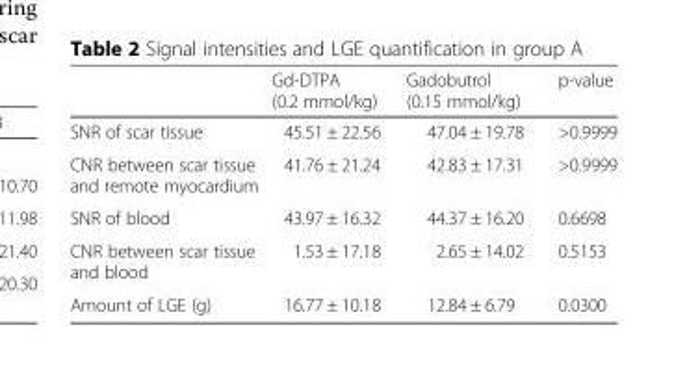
<table><thead><tr><td></td><td>Gd-DTPA (0.2 mmol/kg)</td><td>Gadobutrol (0.15 mmol/kg)</td><td>p-value</td></tr></thead><tbody><tr><td>SNR of scar tissue</td><td>45.51 ± 22.56</td><td>47.04 ± 19.78</td><td>&gt;0.9999</td></tr><tr><td>CNR between scar tissue and remote myocardium</td><td>41.76 ± 21.24</td><td>42.83 ± 17.31</td><td>&gt;0.9999</td></tr><tr><td>SNR of blood</td><td>43.97 ± 16.32</td><td>44.37 ± 16.20</td><td>0.6698</td></tr><tr><td>CNR between scar tissue and blood</td><td>1.53 ± 17.18</td><td>2.65 ± 14.02</td><td>0.5153</td></tr><tr><td>Amount of LGE (g)</td><td>16.77 ± 10.18</td><td>12.84 ± 6.79</td><td>0.0300</td></tr></tbody></table>